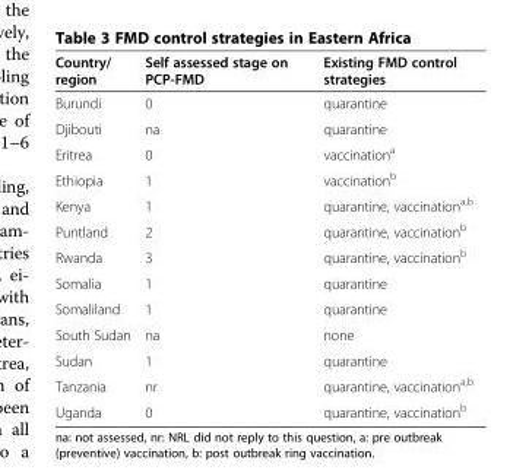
<table><thead><tr><td>Country/ region</td><td>Self assessed stage on PCP-FMD</td><td>Existing FMD control strategies</td></tr></thead><tbody><tr><td>Burundi</td><td>0</td><td>quarantine</td></tr><tr><td>Djibouti</td><td>na</td><td>quarantine</td></tr><tr><td>Eritrea</td><td>0</td><td>vaccination<sup>a</sup></td></tr><tr><td>Ethiopia</td><td>1</td><td>vaccination<sup>b</sup></td></tr><tr><td>Kenya</td><td>1</td><td>quarantine, vaccination<sup>a,b</sup></td></tr><tr><td>Puntland</td><td>2</td><td>quarantine, vaccination<sup>b</sup></td></tr><tr><td>Rwanda</td><td>3</td><td>quarantine, vaccination<sup>b</sup></td></tr><tr><td>Somalia</td><td>1</td><td>quarantine</td></tr><tr><td>Somaliland</td><td>1</td><td>quarantine</td></tr><tr><td>South Sudan</td><td>na</td><td>none</td></tr><tr><td>Sudan</td><td>1</td><td>quarantine</td></tr><tr><td>Tanzania</td><td>nr</td><td>quarantine, vaccination<sup>a,b</sup></td></tr><tr><td>Uganda</td><td>0</td><td>quarantine, vaccination<sup>b</sup></td></tr></tbody></table>